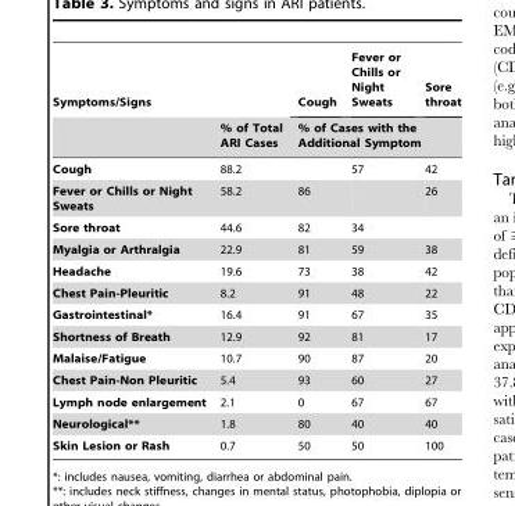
<table><thead><tr><td rowspan="2">Symptoms/Signs</td><td rowspan="2">% of Total ARI Cases</td><td>Cough</td><td>Fever or Chills or Night Sweats</td><td>Sore throat</td></tr><tr><td colspan="3">% of Cases with the Additional Symptom</td></tr></thead><tbody><tr><td>Cough</td><td>88.2</td><td></td><td>57</td><td>42</td></tr><tr><td>Fever or Chills or Night Sweats</td><td>58.2</td><td>86</td><td></td><td>26</td></tr><tr><td>Sore throat</td><td>44.6</td><td>82</td><td>34</td><td></td></tr><tr><td>Myalgia or Arthralgia</td><td>22.9</td><td>81</td><td>59</td><td>38</td></tr><tr><td>Headache</td><td>19.6</td><td>73</td><td>38</td><td>42</td></tr><tr><td>Chest Pain-Pleuritic</td><td>8.2</td><td>91</td><td>48</td><td>22</td></tr><tr><td>Gastrointestinal*</td><td>16.4</td><td>91</td><td>67</td><td>35</td></tr><tr><td>Shortness of Breath</td><td>12.9</td><td>92</td><td>81</td><td>17</td></tr><tr><td>Malaise/Fatigue</td><td>10.7</td><td>90</td><td>87</td><td>20</td></tr><tr><td>Chest Pain-Non Pleuritic</td><td>5.4</td><td>93</td><td>60</td><td>27</td></tr><tr><td>Lymph node enlargement</td><td>2.1</td><td>0</td><td>67</td><td>67</td></tr><tr><td>Neurological**</td><td>1.8</td><td>80</td><td>40</td><td>40</td></tr><tr><td>Skin Lesion or Rash</td><td>0.7</td><td>50</td><td>50</td><td>100</td></tr></tbody></table>